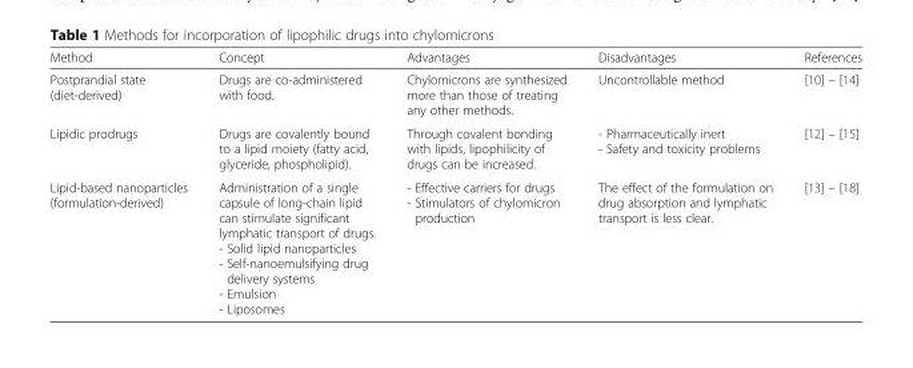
<table><thead><tr><td>Method</td><td>Concept</td><td>Advantages</td><td>Disadvantages</td><td>References</td></tr></thead><tbody><tr><td>Postprandial state (diet-derived)</td><td>Drugs are co-administered with food.</td><td>Chylomicrons are synthesized more than those of treating any other methods.</td><td>Uncontrollable method</td><td>[10] – [14]</td></tr><tr><td>Lipidic prodrugs</td><td>Drugs are covalently bound to a lipid moiety (fatty acid, glyceride, phospholipid).</td><td>Through covalent bonding with lipids, lipophilicity of drugs can be increased.</td><td>- Pharmaceutically inert - Safety and toxicity problems</td><td>[12] – [15]</td></tr><tr><td>Lipid-based nanoparticles (formulation-derived)</td><td>Administration of a single capsule of long-chain lipid can stimulate significant lymphatic transport of drugs. - Solid lipid nanoparticles - Self-nanoemulsifying drug delivery systems - Emulsion - Liposomes</td><td>- Effective carriers for drugs - Stimulators of chylomicron production</td><td>The effect of the formulation on drug absorption and lymphatic transport is less clear.</td><td>[13] – [18]</td></tr></tbody></table>